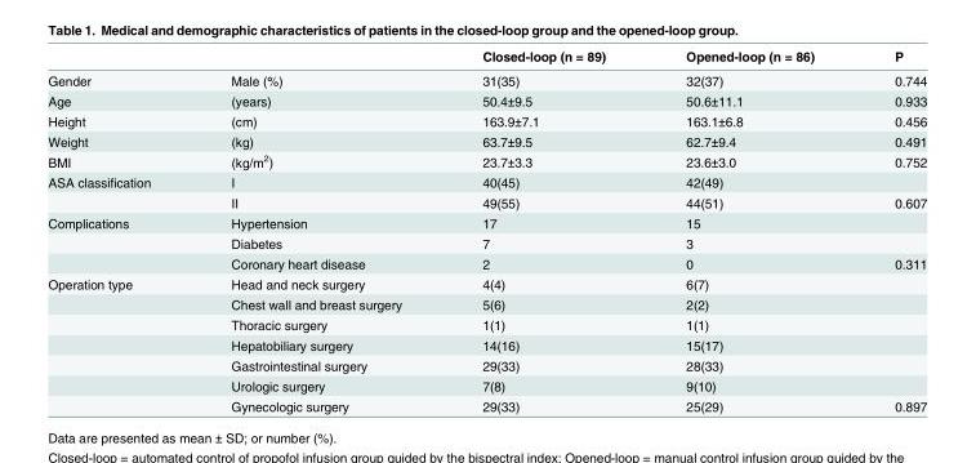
<table><thead><tr><td></td><td></td><td>Closed-loop (n = 89)</td><td>Opened-loop (n = 86)</td><td>P</td></tr></thead><tbody><tr><td>Gender</td><td>Male (%)</td><td>31(35)</td><td>32(37)</td><td>0.744</td></tr><tr><td>Age</td><td>(years)</td><td>50.4±9.5</td><td>50.6±11.1</td><td>0.933</td></tr><tr><td>Height</td><td>(cm)</td><td>163.9±7.1</td><td>163.1±6.8</td><td>0.456</td></tr><tr><td>Weight</td><td>(kg)</td><td>63.7±9.5</td><td>62.7±9.4</td><td>0.491</td></tr><tr><td>BMI</td><td>(kg/m<sup>2</sup>)</td><td>23.7±3.3</td><td>23.6±3.0</td><td>0.752</td></tr><tr><td rowspan="2">ASA classification</td><td>I</td><td>40(45)</td><td>42(49)</td><td></td></tr><tr><td>II</td><td>49(55)</td><td>44(51)</td><td>0.607</td></tr><tr><td rowspan="3">Complications</td><td>Hypertension</td><td>17</td><td>15</td><td></td></tr><tr><td>Diabetes</td><td>7</td><td>3</td><td></td></tr><tr><td>Coronary heart disease</td><td>2</td><td>0</td><td>0.311</td></tr><tr><td rowspan="7">Operation type</td><td>Head and neck surgery</td><td>4(4)</td><td>6(7)</td><td></td></tr><tr><td>Chest wall and breast surgery</td><td>5(6)</td><td>2(2)</td><td></td></tr><tr><td>Thoracic surgery</td><td>1(1)</td><td>1(1)</td><td></td></tr><tr><td>Hepatobiliary surgery</td><td>14(16)</td><td>15(17)</td><td></td></tr><tr><td>Gastrointestinal surgery</td><td>29(33)</td><td>28(33)</td><td></td></tr><tr><td>Urologic surgery</td><td>7(8)</td><td>9(10)</td><td></td></tr><tr><td>Gynecologic surgery</td><td>29(33)</td><td>25(29)</td><td>0.897</td></tr></tbody></table>